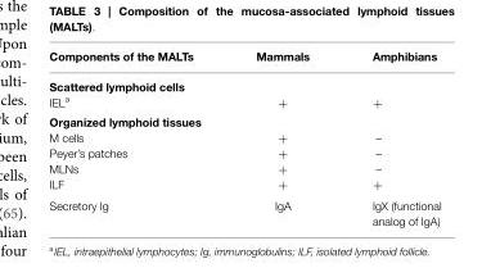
<table><thead><tr><td>Components of the MALTs</td><td>Mammals</td><td>Amphibians</td></tr></thead><tbody><tr><td colspan="3">Scattered lymphoid cells</td></tr><tr><td>IEL<sup>a</sup></td><td>+</td><td>+</td></tr><tr><td colspan="3">Organized lymphoid tissues</td></tr><tr><td>M cells</td><td>+</td><td>–</td></tr><tr><td>Peyer’s patches</td><td>+</td><td>–</td></tr><tr><td>MLNs</td><td>+</td><td>–</td></tr><tr><td>ILF</td><td>+</td><td>+</td></tr><tr><td>Secretory Ig</td><td>IgA</td><td>IgX (functional analog of IgA)</td></tr></tbody></table>